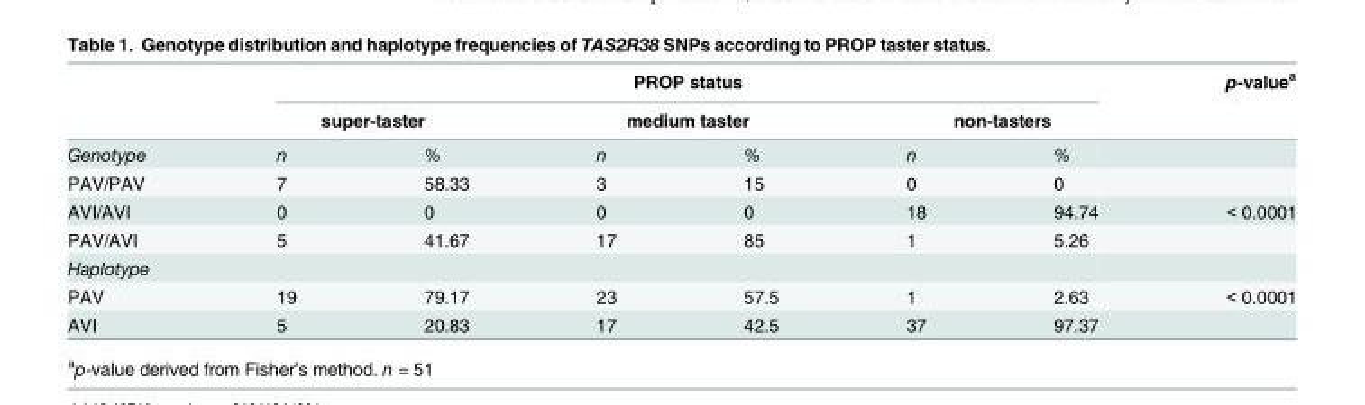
<table><thead><tr><td rowspan="3">Genotype</td><td colspan="6">PROP status</td><td rowspan="3">p-value<sup>a</sup></td></tr><tr><td colspan="2">super-taster</td><td colspan="2">medium taster</td><td colspan="2">non-tasters</td></tr><tr><td>n</td><td>%</td><td>n</td><td>%</td><td>n</td><td>%</td></tr></thead><tbody><tr><td>PAV/PAV</td><td>7</td><td>58.33</td><td>3</td><td>15</td><td>0</td><td>0</td><td></td></tr><tr><td>AVI/AVI</td><td>0</td><td>0</td><td>0</td><td>0</td><td>18</td><td>94.74</td><td>&lt; 0.0001</td></tr><tr><td>PAV/AVI</td><td>5</td><td>41.67</td><td>17</td><td>85</td><td>1</td><td>5.26</td><td></td></tr><tr><td colspan="8">Haplotype</td></tr><tr><td>PAV</td><td>19</td><td>79.17</td><td>23</td><td>57.5</td><td>1</td><td>2.63</td><td>&lt; 0.0001</td></tr><tr><td>AVI</td><td>5</td><td>20.83</td><td>17</td><td>42.5</td><td>37</td><td>97.37</td><td></td></tr></tbody></table>